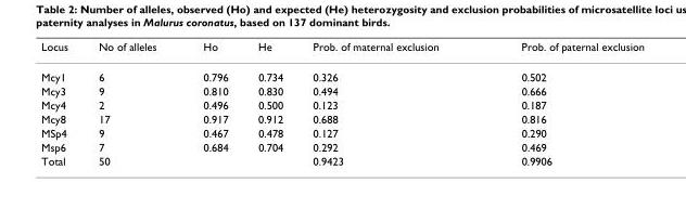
<table><thead><tr><td>Locus</td><td>No of alleles</td><td>Ho</td><td>He</td><td>Prob. of maternal exclusion</td><td>Prob. of paternal exclusion</td></tr></thead><tbody><tr><td>Mcy1</td><td>6</td><td>0.796</td><td>0.734</td><td>0.326</td><td>0.502</td></tr><tr><td>Mcy3</td><td>9</td><td>0.810</td><td>0.830</td><td>0.494</td><td>0.666</td></tr><tr><td>Mcy4</td><td>2</td><td>0.496</td><td>0.500</td><td>0.123</td><td>0.187</td></tr><tr><td>Mcy8</td><td>17</td><td>0.917</td><td>0.912</td><td>0.688</td><td>0.816</td></tr><tr><td>MSp4</td><td>9</td><td>0.467</td><td>0.478</td><td>0.127</td><td>0.290</td></tr><tr><td>Msp6</td><td>7</td><td>0.684</td><td>0.704</td><td>0.292</td><td>0.469</td></tr><tr><td>Total</td><td>50</td><td></td><td></td><td>0.9423</td><td>0.9906</td></tr></tbody></table>